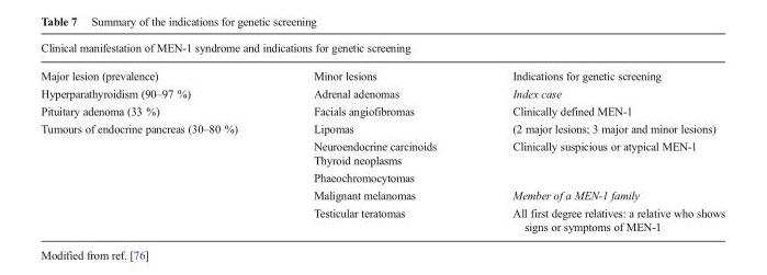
<table><thead><tr><td colspan="3">Clinical manifestation of MEN-1 syndrome and indications for genetic screening</td></tr><tr><td>Major lesion (prevalence)</td><td>Minor lesions</td><td>Indications for genetic screening</td></tr></thead><tbody><tr><td>Hyperparathyroidism (90–97 %)</td><td>Adrenal adenomas</td><td>Index case</td></tr><tr><td>Pituitary adenoma (33 %)</td><td>Facials angiofibromas</td><td>Clinically defined MEN-1</td></tr><tr><td rowspan="6">Tumours of endocrine pancreas (30–80 %)</td><td>Lipomas</td><td>(2 major lesions; 3 major and minor lesions)</td></tr><tr><td>Neuroendocrine carcinoids</td><td rowspan="2">Clinically suspicious or atypical MEN-1</td></tr><tr><td>Thyroid neoplasms</td></tr><tr><td>Phaeochromocytomas</td><td></td></tr><tr><td>Malignant melanomas</td><td>Member of a MEN-1 family</td></tr><tr><td>Testicular teratomas</td><td>All first degree relatives: a relative who shows signs or symptoms of MEN-1</td></tr></tbody></table>